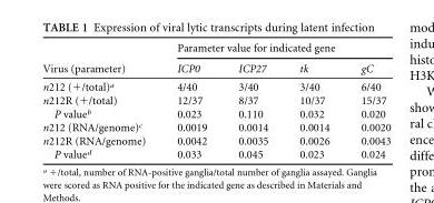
<table><thead><tr><td rowspan="2">Virus (parameter)</td><td colspan="4">Parameter value for indicated gene</td></tr><tr><td>ICP0</td><td>ICP27</td><td>tk</td><td>gC</td></tr></thead><tbody><tr><td>n212 (+/total)<sup>a</sup></td><td>4/40</td><td>3/40</td><td>3/40</td><td>6/40</td></tr><tr><td>n212R (+/total)</td><td>12/37</td><td>8/37</td><td>10/37</td><td>15/37</td></tr><tr><td>P value<sup>b</sup></td><td>0.023</td><td>0.110</td><td>0.032</td><td>0.020</td></tr><tr><td>n212 (RNA/genome)<sup>c</sup></td><td>0.0019</td><td>0.0014</td><td>0.0014</td><td>0.0020</td></tr><tr><td>n212R (RNA/genome)</td><td>0.0042</td><td>0.0035</td><td>0.0026</td><td>0.0043</td></tr><tr><td>P value<sup>d</sup></td><td>0.033</td><td>0.045</td><td>0.023</td><td>0.024</td></tr></tbody></table>